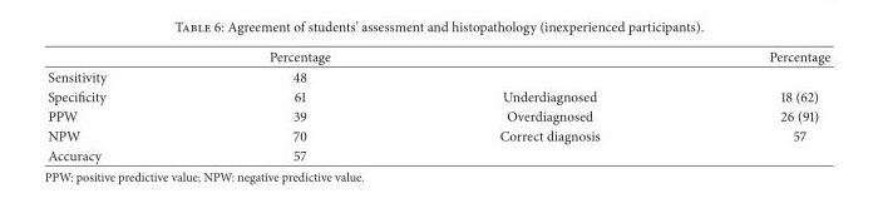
<table><thead><tr><td></td><td>Percentage</td><td></td><td>Percentage</td></tr></thead><tbody><tr><td>Sensitivity</td><td>48</td><td></td><td></td></tr><tr><td>Specificity</td><td>61</td><td>Underdiagnosed</td><td>18 (62)</td></tr><tr><td>PPW</td><td>39</td><td>Overdiagnosed</td><td>26 (91)</td></tr><tr><td>NPW</td><td>70</td><td>Correct diagnosis</td><td>57</td></tr><tr><td>Accuracy</td><td>57</td><td></td><td></td></tr></tbody></table>